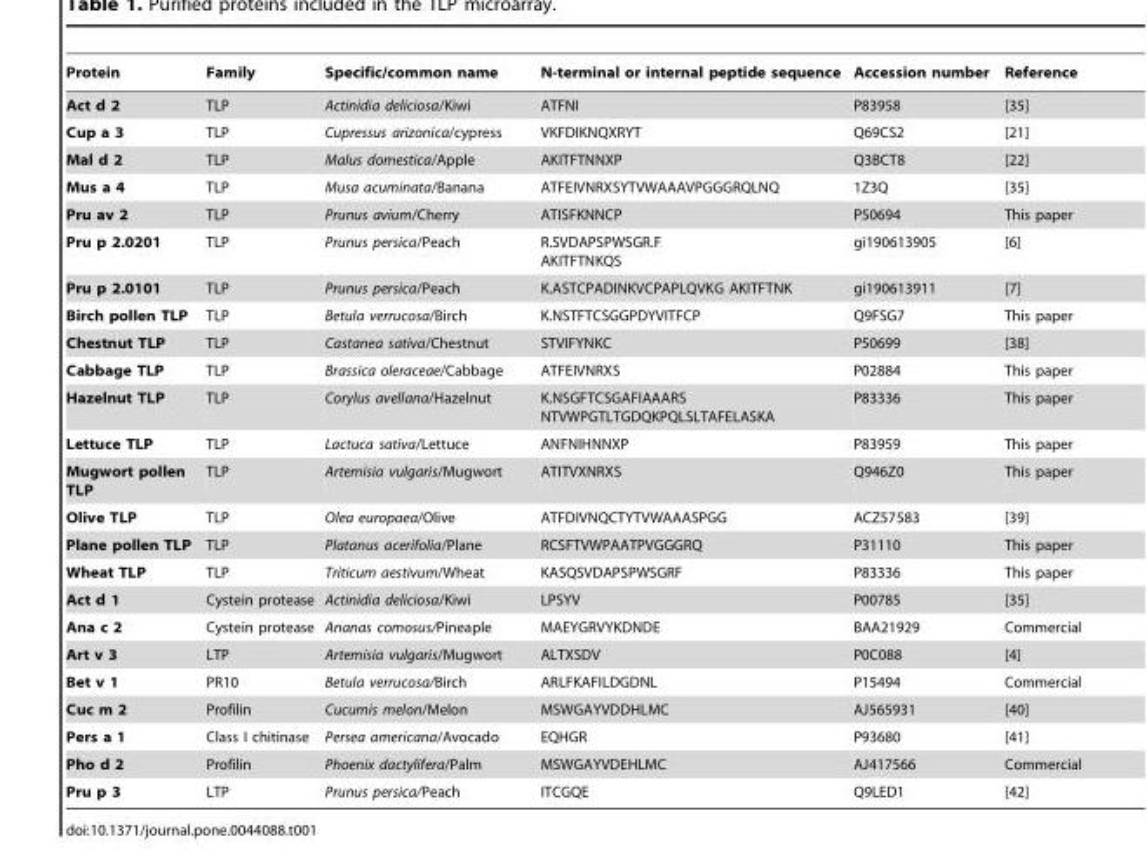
<table><thead><tr><td>Protein</td><td>Family</td><td>Specific/common name</td><td>N-terminal or internal peptide sequence</td><td>Accession number</td><td>Reference</td></tr></thead><tbody><tr><td>Act d 2</td><td>TLP</td><td>Actinidia deliciosa/Kiwi</td><td>ATFNI</td><td>P83958</td><td>[35]</td></tr><tr><td>Cup a 3</td><td>TLP</td><td>Cupressus arizonica/cypress</td><td>VKFDIKNQXRYT</td><td>Q69CS2</td><td>[21]</td></tr><tr><td>Mal d 2</td><td>TLP</td><td>Malus domestica/Apple</td><td>AKITFTNNXP</td><td>Q3BCT8</td><td>[22]</td></tr><tr><td>Mus a 4</td><td>TLP</td><td>Musa acuminata/Banana</td><td>ATFEIVNRXSYTVWAAAVPGGGRQLNQ</td><td>1Z3Q</td><td>[35]</td></tr><tr><td>Pru av 2</td><td>TLP</td><td>Prunus avium/Cherry</td><td>ATISFKNNCP</td><td>P50694</td><td>This paper</td></tr><tr><td>Pru p 2.0201</td><td>TLP</td><td>Prunus persica/Peach</td><td>R.SVDAPSPWSGR.F AKITFTNKQS</td><td>gi190613905</td><td>[6]</td></tr><tr><td>Pru p 2.0101</td><td>TLP</td><td>Prunus persica/Peach</td><td>K.ASTCPADINKVCPAPLQVKG AKITFTNK</td><td>gi190613911</td><td>[7]</td></tr><tr><td>Birch pollen TLP</td><td>TLP</td><td>Betula verrucosa/Birch</td><td>K.NSTFTCSGGPDYVITFCP</td><td>Q9FSG7</td><td>This paper</td></tr><tr><td>Chestnut TLP</td><td>TLP</td><td>Castanea sativa/Chestnut</td><td>STVIFYNKC</td><td>P50699</td><td>[38]</td></tr><tr><td>Cabbage TLP</td><td>TLP</td><td>Brassica oleraceae/Cabbage</td><td>ATFEIVNRXS</td><td>P02884</td><td>This paper</td></tr><tr><td>Hazelnut TLP</td><td>TLP</td><td>Corylus avellana/Hazelnut</td><td>K.NSGFTCSGAFIAAARS NTVWPGTLTGDQKPQLSLTAFELASKA</td><td>P83336</td><td>This paper</td></tr><tr><td>Lettuce TLP</td><td>TLP</td><td>Lactuca sativa/Lettuce</td><td>ANFNIHNNXP</td><td>P83959</td><td>This paper</td></tr><tr><td>Mugwort pollen TLP</td><td>TLP</td><td>Artemisia vulgaris/Mugwort</td><td>ATITVXNRXS</td><td>Q946Z0</td><td>This paper</td></tr><tr><td>Olive TLP</td><td>TLP</td><td>Olea europaea/Olive</td><td>ATFDIVNQCTYTVWAAASPGG</td><td>ACZ57583</td><td>[39]</td></tr><tr><td>Plane pollen TLP</td><td>TLP</td><td>Platanus acerifolia/Plane</td><td>RCSFTVWPAATPVGGGRQ</td><td>P31110</td><td>This paper</td></tr><tr><td>Wheat TLP</td><td>TLP</td><td>Triticum aestivum/Wheat</td><td>KASQSVDAPSPWSGRF</td><td>P83336</td><td>This paper</td></tr><tr><td>Act d 1</td><td>Cystein protease</td><td>Actinidia deliciosa/Kiwi</td><td>LPSYV</td><td>P00785</td><td>[35]</td></tr><tr><td>Ana c 2</td><td>Cystein protease</td><td>Ananas comosus/Pineaple</td><td>MAEYGRVYKDNDE</td><td>BAA21929</td><td>Commercial</td></tr><tr><td>Art v 3</td><td>LTP</td><td>Artemisia vulgaris/Mugwort</td><td>ALTXSDV</td><td>P0C088</td><td>[4]</td></tr><tr><td>Bet v 1</td><td>PR10</td><td>Betula verrucosa/Birch</td><td>ARLFKAFILDGDNL</td><td>P15494</td><td>Commercial</td></tr><tr><td>Cuc m 2</td><td>Profilin</td><td>Cucumis melon/Melon</td><td>MSWGAYVDDHLMC</td><td>AJ565931</td><td>[40]</td></tr><tr><td>Pers a 1</td><td>Class I chitinase</td><td>Persea americana/Avocado</td><td>EQHGR</td><td>P93680</td><td>[41]</td></tr><tr><td>Pho d 2</td><td>Profilin</td><td>Phoenix dactylifera/Palm</td><td>MSWGAYVDEHLMC</td><td>AJ417566</td><td>Commercial</td></tr><tr><td>Pru p 3</td><td>LTP</td><td>Prunus persica/Peach</td><td>ITCGQE</td><td>Q9LED1</td><td>[42]</td></tr></tbody></table>